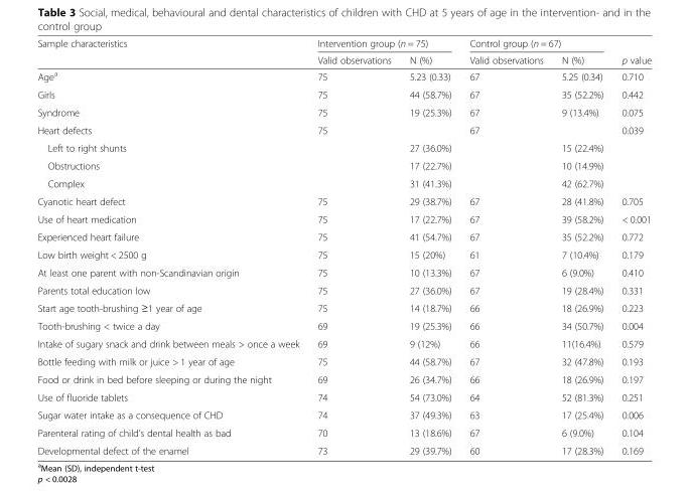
<table><thead><tr><td rowspan="2">Sample characteristics</td><td colspan="2">Intervention group (n = 75)</td><td colspan="2">Control group (n = 67)</td><td rowspan="2">p value</td></tr><tr><td>Valid observations</td><td>N (%)</td><td>Valid observations</td><td>N (%)</td></tr></thead><tbody><tr><td>Age<sup>a</sup></td><td>75</td><td>5.23 (0.33)</td><td>67</td><td>5.25 (0.34)</td><td>0.710</td></tr><tr><td>Girls</td><td>75</td><td>44 (58.7%)</td><td>67</td><td>35 (52.2%)</td><td>0.442</td></tr><tr><td>Syndrome</td><td>75</td><td>19 (25.3%)</td><td>67</td><td>9 (13.4%)</td><td>0.075</td></tr><tr><td>Heart defects</td><td>75</td><td></td><td>67</td><td></td><td>0.039</td></tr><tr><td>Left to right shunts</td><td></td><td>27 (36.0%)</td><td></td><td>15 (22.4%)</td><td></td></tr><tr><td>Obstructions</td><td></td><td>17 (22.7%)</td><td></td><td>10 (14.9%)</td><td></td></tr><tr><td>Complex</td><td></td><td>31 (41.3%)</td><td></td><td>42 (62.7%)</td><td></td></tr><tr><td>Cyanotic heart defect</td><td>75</td><td>29 (38.7%)</td><td>67</td><td>28 (41.8%)</td><td>0.705</td></tr><tr><td>Use of heart medication</td><td>75</td><td>17 (22.7%)</td><td>67</td><td>39 (58.2%)</td><td>&lt; 0.001</td></tr><tr><td>Experienced heart failure</td><td>75</td><td>41 (54.7%)</td><td>67</td><td>35 (52.2%)</td><td>0.772</td></tr><tr><td>Low birth weight &lt; 2500 g</td><td>75</td><td>15 (20%)</td><td>61</td><td>7 (10.4%)</td><td>0.179</td></tr><tr><td>At least one parent with non-Scandinavian origin</td><td>75</td><td>10 (13.3%)</td><td>67</td><td>6 (9.0%)</td><td>0.410</td></tr><tr><td>Parents total education low</td><td>75</td><td>27 (36.0%)</td><td>67</td><td>19 (28.4%)</td><td>0.331</td></tr><tr><td>Start age tooth-brushing ≥1 year of age</td><td>75</td><td>14 (18.7%)</td><td>66</td><td>18 (26.9%)</td><td>0.223</td></tr><tr><td>Tooth-brushing &lt; twice a day</td><td>69</td><td>19 (25.3%)</td><td>66</td><td>34 (50.7%)</td><td>0.004</td></tr><tr><td>Intake of sugary snack and drink between meals &gt; once a week</td><td>69</td><td>9 (12%)</td><td>66</td><td>11(16.4%)</td><td>0.579</td></tr><tr><td>Bottle feeding with milk or juice &gt; 1 year of age</td><td>75</td><td>44 (58.7%)</td><td>67</td><td>32 (47.8%)</td><td>0.193</td></tr><tr><td>Food or drink in bed before sleeping or during the night</td><td>69</td><td>26 (34.7%)</td><td>66</td><td>18 (26.9%)</td><td>0.197</td></tr><tr><td>Use of fluoride tablets</td><td>74</td><td>54 (73.0%)</td><td>64</td><td>52 (81.3%)</td><td>0.251</td></tr><tr><td>Sugar water intake as a consequence of CHD</td><td>74</td><td>37 (49.3%)</td><td>63</td><td>17 (25.4%)</td><td>0.006</td></tr><tr><td>Parenteral rating of child’s dental health as bad</td><td>70</td><td>13 (18.6%)</td><td>67</td><td>6 (9.0%)</td><td>0.104</td></tr><tr><td>Developmental defect of the enamel</td><td>73</td><td>29 (39.7%)</td><td>60</td><td>17 (28.3%)</td><td>0.169</td></tr></tbody></table>